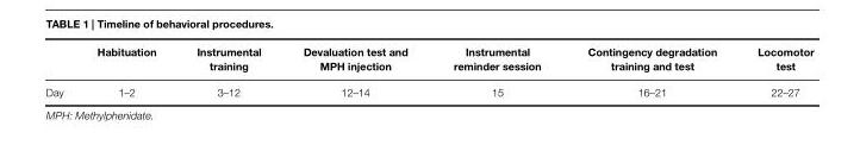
<table><thead><tr><td></td><td>Habituation</td><td>Instrumental training</td><td>Devaluation test and MPH injection</td><td>Instrumental reminder session</td><td>Contingency degradation training and test</td><td>Locomotor test</td></tr></thead><tbody><tr><td>Day</td><td>1–2</td><td>3–12</td><td>12–14</td><td>15</td><td>16–21</td><td>22–27</td></tr></tbody></table>